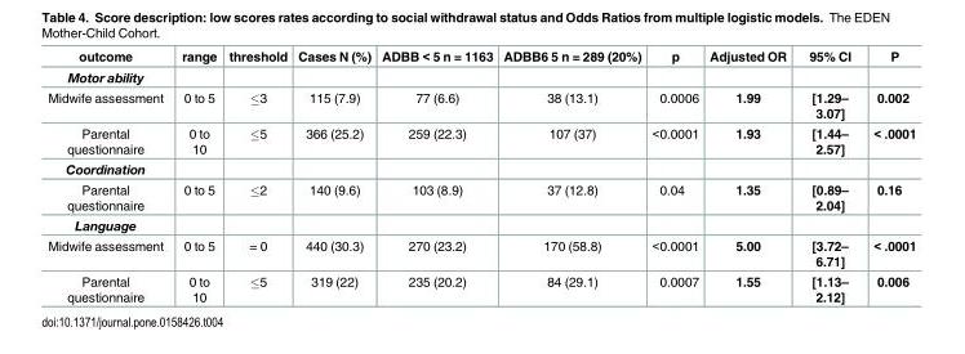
<table><thead><tr><td>outcome</td><td>range</td><td>threshold</td><td>Cases N (%)</td><td>ADBB &lt; 5 n = 1163</td><td>ADBB6 5 n = 289 (20%)</td><td>p</td><td>Adjusted OR</td><td>95% CI</td><td>P</td></tr></thead><tbody><tr><td colspan="10">Motor ability</td></tr><tr><td>Midwife assessment</td><td>0 to 5</td><td>≤3</td><td>115 (7.9)</td><td>77 (6.6)</td><td>38 (13.1)</td><td>0.0006</td><td>1.99</td><td>[1.29– 3.07]</td><td>0.002</td></tr><tr><td>Parental questionnaire</td><td>0 to 10</td><td>≤5</td><td>366 (25.2)</td><td>259 (22.3)</td><td>107 (37)</td><td>&lt;0.0001</td><td>1.93</td><td>[1.44– 2.57]</td><td>&lt; .0001</td></tr><tr><td colspan="10">Coordination</td></tr><tr><td>Parental questionnaire</td><td>0 to 5</td><td>≤2</td><td>140 (9.6)</td><td>103 (8.9)</td><td>37 (12.8)</td><td>0.04</td><td>1.35</td><td>[0.89– 2.04]</td><td>0.16</td></tr><tr><td colspan="10">Language</td></tr><tr><td>Midwife assessment</td><td>0 to 5</td><td>= 0</td><td>440 (30.3)</td><td>270 (23.2)</td><td>170 (58.8)</td><td>&lt;0.0001</td><td>5.00</td><td>[3.72– 6.71]</td><td>&lt; .0001</td></tr><tr><td>Parental questionnaire</td><td>0 to 10</td><td>≤5</td><td>319 (22)</td><td>235 (20.2)</td><td>84 (29.1)</td><td>0.0007</td><td>1.55</td><td>[1.13– 2.12]</td><td>0.006</td></tr></tbody></table>